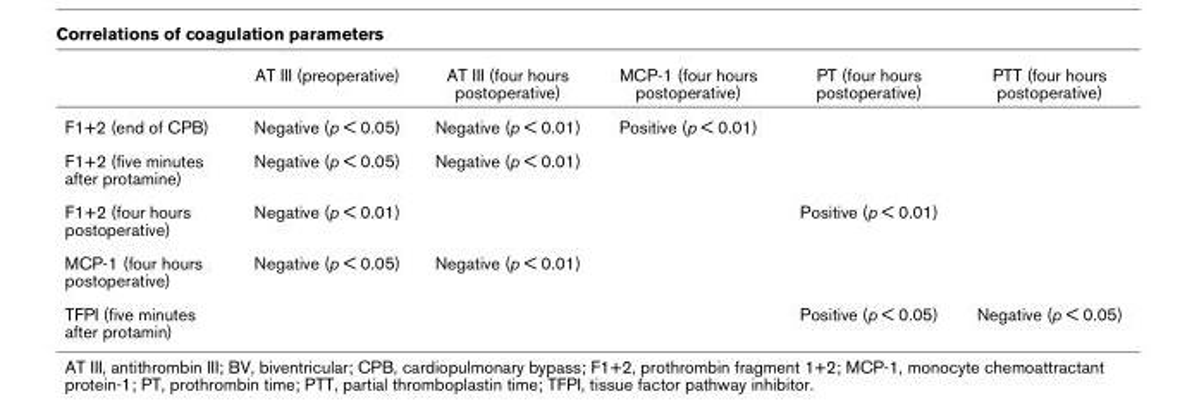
<table><thead><tr><td></td><td>AT III (preoperative)</td><td>AT III (four hours postoperative)</td><td>MCP-1 (four hours postoperative)</td><td>PT (four hours postoperative)</td><td>PTT (four hours postoperative)</td></tr></thead><tbody><tr><td>F1+2 (end of CPB)</td><td>Negative (p &lt; 0.05)</td><td>Negative (p &lt; 0.01)</td><td>Positive (p &lt; 0.01)</td><td></td><td></td></tr><tr><td>F1+2 (five minutes after protamine)</td><td>Negative (p &lt; 0.05)</td><td>Negative (p &lt; 0.01)</td><td></td><td></td><td></td></tr><tr><td>F1+2 (four hours postoperative)</td><td>Negative (p &lt; 0.01)</td><td></td><td></td><td>Positive (p &lt; 0.01)</td><td></td></tr><tr><td>MCP-1 (four hours postoperative)</td><td>Negative (p &lt; 0.05)</td><td>Negative (p &lt; 0.01)</td><td></td><td></td><td></td></tr><tr><td>TFPI (five minutes after protamin)</td><td></td><td></td><td></td><td>Positive (p &lt; 0.05)</td><td>Negative (p &lt; 0.05)</td></tr></tbody></table>